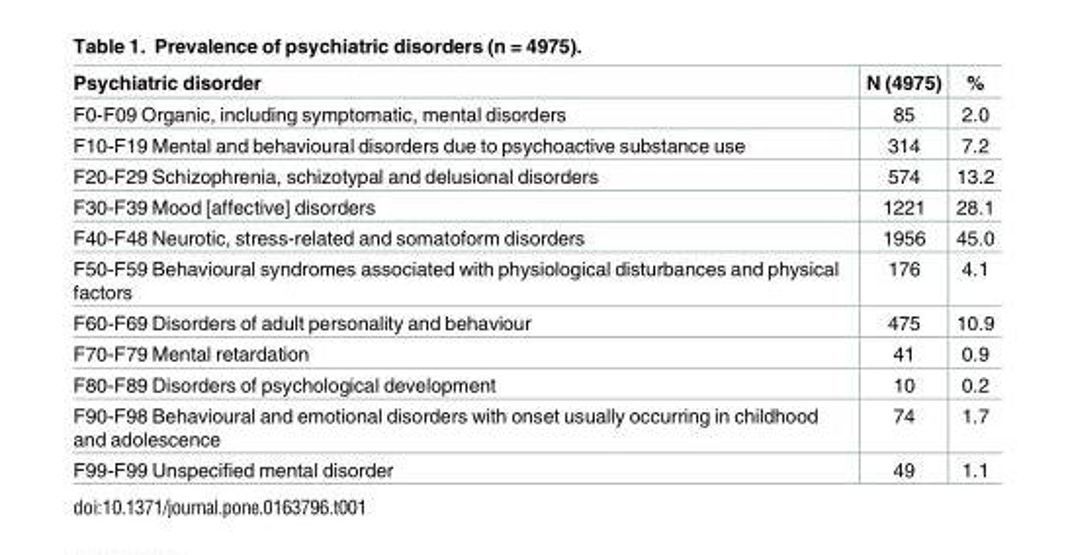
<table><thead><tr><td>Psychiatric disorder</td><td>N (4975)</td><td>%</td></tr></thead><tbody><tr><td>F0-F09 Organic, including symptomatic, mental disorders</td><td>85</td><td>2.0</td></tr><tr><td>F10-F19 Mental and behavioural disorders due to psychoactive substance use</td><td>314</td><td>7.2</td></tr><tr><td>F20-F29 Schizophrenia, schizotypal and delusional disorders</td><td>574</td><td>13.2</td></tr><tr><td>F30-F39 Mood [affective] disorders</td><td>1221</td><td>28.1</td></tr><tr><td>F40-F48 Neurotic, stress-related and somatoform disorders</td><td>1956</td><td>45.0</td></tr><tr><td>F50-F59 Behavioural syndromes associated with physiological disturbances and physical factors</td><td>176</td><td>4.1</td></tr><tr><td>F60-F69 Disorders of adult personality and behaviour</td><td>475</td><td>10.9</td></tr><tr><td>F70-F79 Mental retardation</td><td>41</td><td>0.9</td></tr><tr><td>F80-F89 Disorders of psychological development</td><td>10</td><td>0.2</td></tr><tr><td>F90-F98 Behavioural and emotional disorders with onset usually occurring in childhood and adolescence</td><td>74</td><td>1.7</td></tr><tr><td>F99-F99 Unspecified mental disorder</td><td>49</td><td>1.1</td></tr></tbody></table>